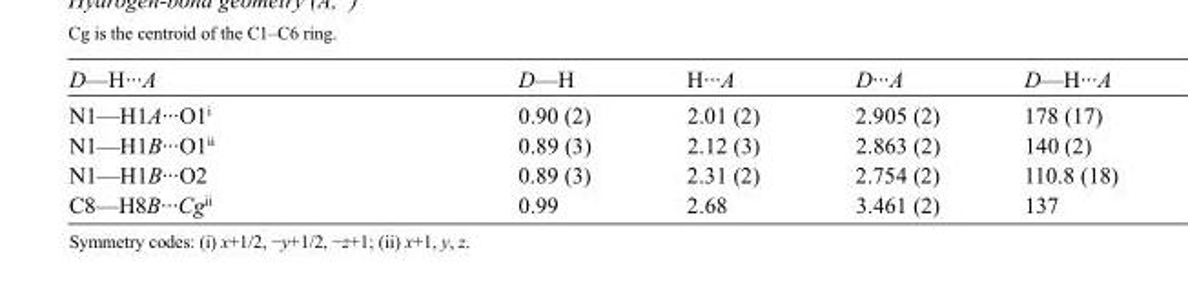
<table><tbody><tr><td>D—H···A</td><td>D—H</td><td>H···A</td><td>D···A</td><td>D—H···A</td></tr><tr><td>N1—H1A···O1<sup>i</sup></td><td>0.90 (2)</td><td>2.01 (2)</td><td>2.905 (2)</td><td>178 (17)</td></tr><tr><td>N1—H1B···O1<sup>ii</sup></td><td>0.89 (3)</td><td>2.12 (3)</td><td>2.863 (2)</td><td>140 (2)</td></tr><tr><td>N1—H1B···O2</td><td>0.89 (3)</td><td>2.31 (2)</td><td>2.754 (2)</td><td>110.8 (18)</td></tr><tr><td>C8—H8B···Cg<sup>ii</sup></td><td>0.99</td><td>2.68</td><td>3.461 (2)</td><td>137</td></tr></tbody></table>